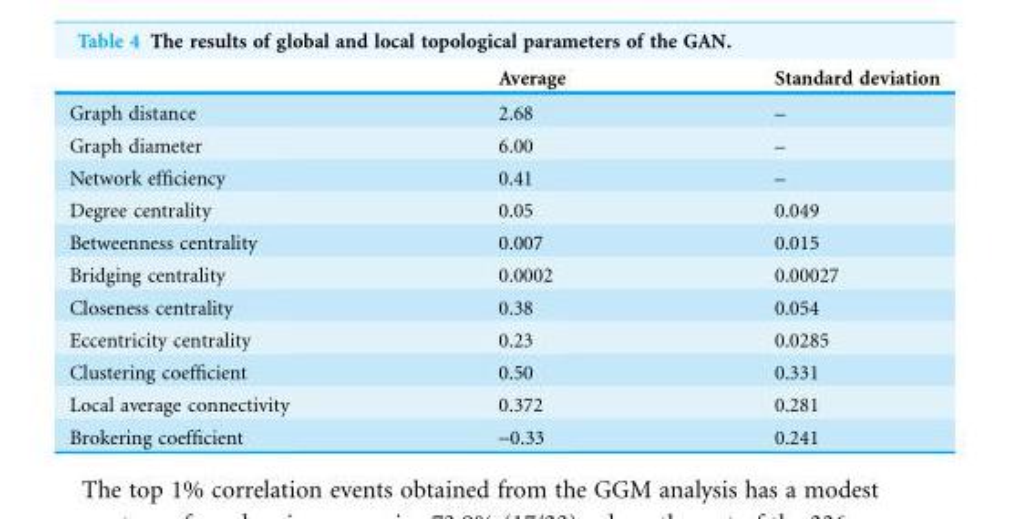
<table><thead><tr><td></td><td>Average</td><td>Standard deviation</td></tr></thead><tbody><tr><td>Graph distance</td><td>2.68</td><td>–</td></tr><tr><td>Graph diameter</td><td>6.00</td><td>–</td></tr><tr><td>Network efficiency</td><td>0.41</td><td>–</td></tr><tr><td>Degree centrality</td><td>0.05</td><td>0.049</td></tr><tr><td>Betweenness centrality</td><td>0.007</td><td>0.015</td></tr><tr><td>Bridging centrality</td><td>0.0002</td><td>0.00027</td></tr><tr><td>Closeness centrality</td><td>0.38</td><td>0.054</td></tr><tr><td>Eccentricity centrality</td><td>0.23</td><td>0.0285</td></tr><tr><td>Clustering coefficient</td><td>0.50</td><td>0.331</td></tr><tr><td>Local average connectivity</td><td>0.372</td><td>0.281</td></tr><tr><td>Brokering coefficient</td><td>-0.33</td><td>0.241</td></tr></tbody></table>